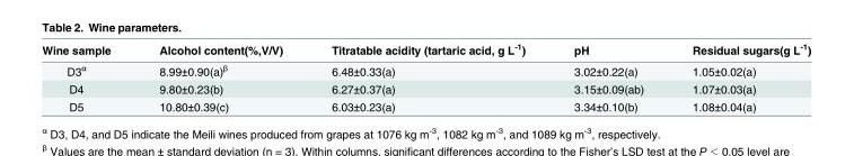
<table><thead><tr><td>Wine sample</td><td>Alcohol content(%,V/V)</td><td>Titratable acidity (tartaric acid, g L<sup>-1</sup>)</td><td>pH</td><td>Residual sugars(g L<sup>-1</sup>)</td></tr></thead><tbody><tr><td>D3<sup>α</sup></td><td>8.99±0.90(a)<sup>β</sup></td><td>6.48±0.33(a)</td><td>3.02±0.22(a)</td><td>1.05±0.02(a)</td></tr><tr><td>D4</td><td>9.80±0.23(b)</td><td>6.27±0.37(a)</td><td>3.15±0.09(ab)</td><td>1.07±0.03(a)</td></tr><tr><td>D5</td><td>10.80±0.39(c)</td><td>6.03±0.23(a)</td><td>3.34±0.10(b)</td><td>1.08±0.04(a)</td></tr></tbody></table>